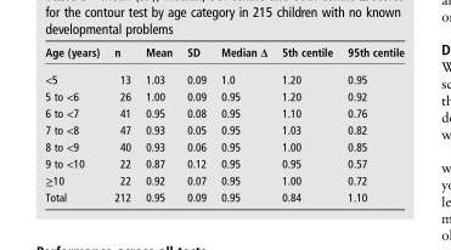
<table><thead><tr><td>Age (years)</td><td>n</td><td>Mean</td><td>SD</td><td>Median Δ</td><td>5th centile</td><td>95th centile</td></tr></thead><tbody><tr><td>&lt;5</td><td>13</td><td>1.03</td><td>0.09</td><td>1.0</td><td>1.20</td><td>0.95</td></tr><tr><td>5 to &lt;6</td><td>26</td><td>1.00</td><td>0.09</td><td>0.95</td><td>1.20</td><td>0.92</td></tr><tr><td>6 to &lt;7</td><td>41</td><td>0.95</td><td>0.08</td><td>0.95</td><td>1.10</td><td>0.76</td></tr><tr><td>7 to &lt;8</td><td>47</td><td>0.93</td><td>0.05</td><td>0.95</td><td>1.03</td><td>0.82</td></tr><tr><td>8 to &lt;9</td><td>40</td><td>0.93</td><td>0.06</td><td>0.95</td><td>1.00</td><td>0.85</td></tr><tr><td>9 to &lt;10</td><td>22</td><td>0.87</td><td>0.12</td><td>0.95</td><td>0.95</td><td>0.57</td></tr><tr><td>≥10</td><td>22</td><td>0.92</td><td>0.07</td><td>0.95</td><td>1.00</td><td>0.72</td></tr><tr><td>Total</td><td>212</td><td>0.95</td><td>0.09</td><td>0.95</td><td>0.84</td><td>1.10</td></tr></tbody></table>